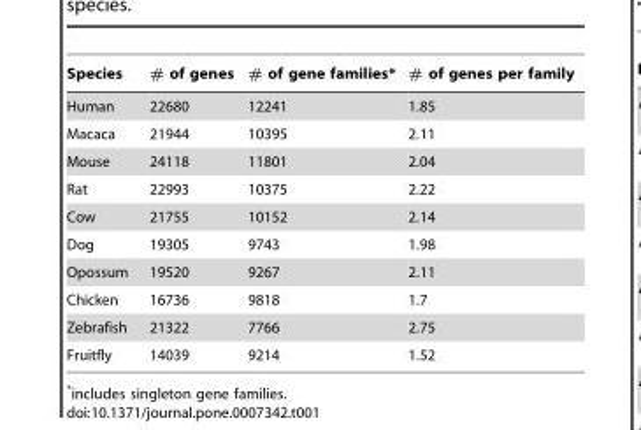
<table><thead><tr><td>Species</td><td># of genes</td><td># of gene families*</td><td># of genes per family</td></tr></thead><tbody><tr><td>Human</td><td>22680</td><td>12241</td><td>1.85</td></tr><tr><td>Macaca</td><td>21944</td><td>10395</td><td>2.11</td></tr><tr><td>Mouse</td><td>24118</td><td>11801</td><td>2.04</td></tr><tr><td>Rat</td><td>22993</td><td>10375</td><td>2.22</td></tr><tr><td>Cow</td><td>21755</td><td>10152</td><td>2.14</td></tr><tr><td>Dog</td><td>19305</td><td>9743</td><td>1.98</td></tr><tr><td>Opossum</td><td>19520</td><td>9267</td><td>2.11</td></tr><tr><td>Chicken</td><td>16736</td><td>9818</td><td>1.7</td></tr><tr><td>Zebrafish</td><td>21322</td><td>7766</td><td>2.75</td></tr><tr><td>Fruitfly</td><td>14039</td><td>9214</td><td>1.52</td></tr></tbody></table>